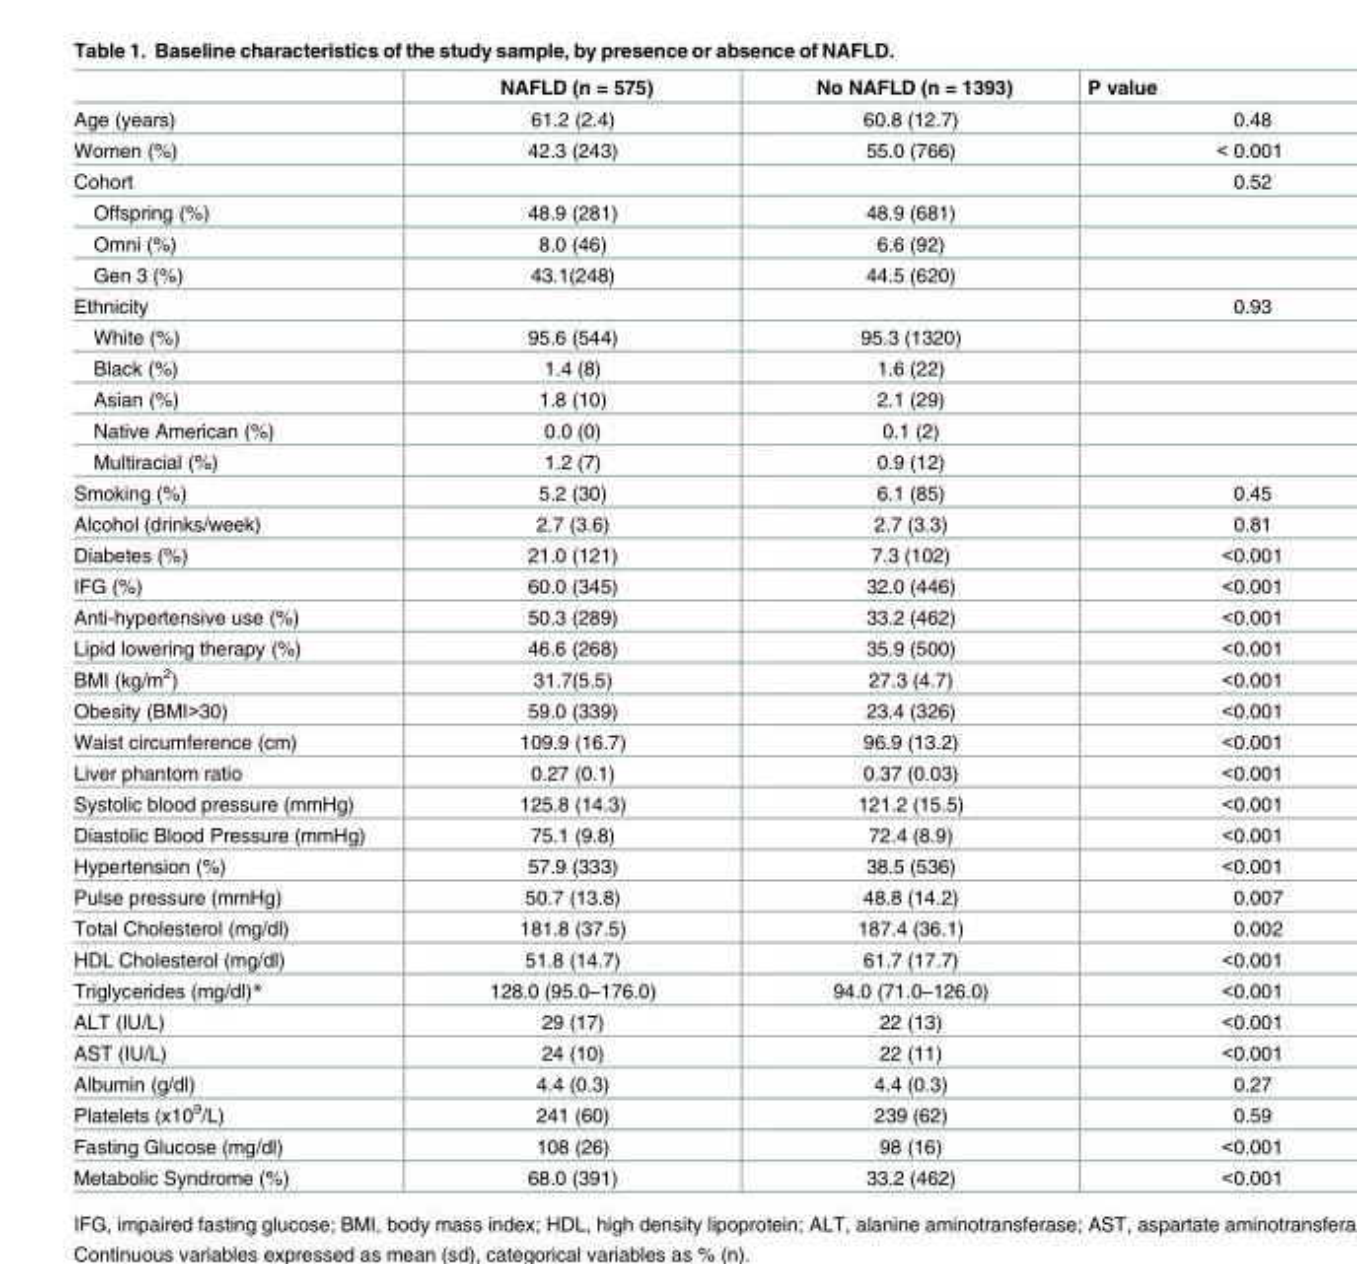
<table><thead><tr><td></td><td>NAFLD (n = 575)</td><td>No NAFLD (n = 1393)</td><td>P value</td></tr></thead><tbody><tr><td>Age (years)</td><td>61.2 (2.4)</td><td>60.8 (12.7)</td><td>0.48</td></tr><tr><td>Women (%)</td><td>42.3 (243)</td><td>55.0 (766)</td><td>&lt; 0.001</td></tr><tr><td>Cohort</td><td></td><td></td><td>0.52</td></tr><tr><td>Offspring (%)</td><td>48.9 (281)</td><td>48.9 (681)</td><td></td></tr><tr><td>Omni (%)</td><td>8.0 (46)</td><td>6.6 (92)</td><td></td></tr><tr><td>Gen 3 (%)</td><td>43.1(248)</td><td>44.5 (620)</td><td></td></tr><tr><td>Ethnicity</td><td></td><td></td><td>0.93</td></tr><tr><td>White (%)</td><td>95.6 (544)</td><td>95.3 (1320)</td><td></td></tr><tr><td>Black (%)</td><td>1.4 (8)</td><td>1.6 (22)</td><td></td></tr><tr><td>Asian (%)</td><td>1.8 (10)</td><td>2.1 (29)</td><td></td></tr><tr><td>Native American (%)</td><td>0.0 (0)</td><td>0.1 (2)</td><td></td></tr><tr><td>Multiracial (%)</td><td>1.2 (7)</td><td>0.9 (12)</td><td></td></tr><tr><td>Smoking (%)</td><td>5.2 (30)</td><td>6.1 (85)</td><td>0.45</td></tr><tr><td>Alcohol (drinks/week)</td><td>2.7 (3.6)</td><td>2.7 (3.3)</td><td>0.81</td></tr><tr><td>Diabetes (%)</td><td>21.0 (121)</td><td>7.3 (102)</td><td>&lt;0.001</td></tr><tr><td>IFG (%)</td><td>60.0 (345)</td><td>32.0 (446)</td><td>&lt;0.001</td></tr><tr><td>Anti-hypertensive use (%)</td><td>50.3 (289)</td><td>33.2 (462)</td><td>&lt;0.001</td></tr><tr><td>Lipid lowering therapy (%)</td><td>46.6 (268)</td><td>35.9 (500)</td><td>&lt;0.001</td></tr><tr><td>BMI (kg/m<sup>2</sup>)</td><td>31.7(5.5)</td><td>27.3 (4.7)</td><td>&lt;0.001</td></tr><tr><td>Obesity (BMI&gt;30)</td><td>59.0 (339)</td><td>23.4 (326)</td><td>&lt;0.001</td></tr><tr><td>Waist circumference (cm)</td><td>109.9 (16.7)</td><td>96.9 (13.2)</td><td>&lt;0.001</td></tr><tr><td>Liver phantom ratio</td><td>0.27 (0.1)</td><td>0.37 (0.03)</td><td>&lt;0.001</td></tr><tr><td>Systolic blood pressure (mmHg)</td><td>125.8 (14.3)</td><td>121.2 (15.5)</td><td>&lt;0.001</td></tr><tr><td>Diastolic Blood Pressure (mmHg)</td><td>75.1 (9.8)</td><td>72.4 (8.9)</td><td>&lt;0.001</td></tr><tr><td>Hypertension (%)</td><td>57.9 (333)</td><td>38.5 (536)</td><td>&lt;0.001</td></tr><tr><td>Pulse pressure (mmHg)</td><td>50.7 (13.8)</td><td>48.8 (14.2)</td><td>0.007</td></tr><tr><td>Total Cholesterol (mg/dl)</td><td>181.8 (37.5)</td><td>187.4 (36.1)</td><td>0.002</td></tr><tr><td>HDL Cholesterol (mg/dl)</td><td>51.8 (14.7)</td><td>61.7 (17.7)</td><td>&lt;0.001</td></tr><tr><td>Triglycerides (mg/dl)*</td><td>128.0 (95.0–176.0)</td><td>94.0 (71.0–126.0)</td><td>&lt;0.001</td></tr><tr><td>ALT (IU/L)</td><td>29 (17)</td><td>22 (13)</td><td>&lt;0.001</td></tr><tr><td>AST (IU/L)</td><td>24 (10)</td><td>22 (11)</td><td>&lt;0.001</td></tr><tr><td>Albumin (g/dl)</td><td>4.4 (0.3)</td><td>4.4 (0.3)</td><td>0.27</td></tr><tr><td>Platelets (x10<sup>9</sup>/L)</td><td>241 (60)</td><td>239 (62)</td><td>0.59</td></tr><tr><td>Fasting Glucose (mg/dl)</td><td>108 (26)</td><td>98 (16)</td><td>&lt;0.001</td></tr><tr><td>Metabolic Syndrome (%)</td><td>68.0 (391)</td><td>33.2 (462)</td><td>&lt;0.001</td></tr></tbody></table>